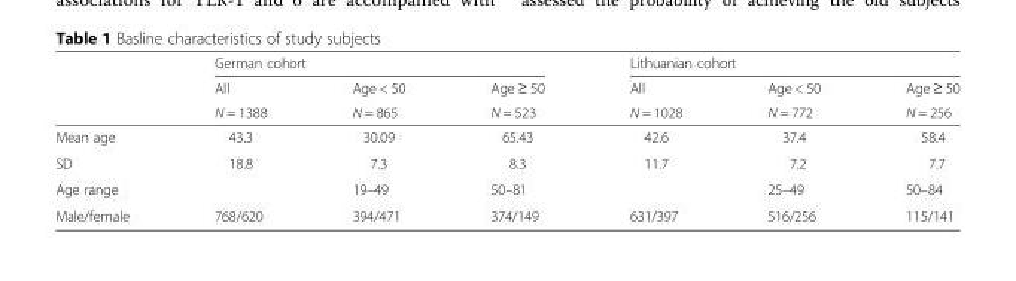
<table><thead><tr><td rowspan="3"></td><td colspan="3">German cohort</td><td colspan="3">Lithuanian cohort</td></tr><tr><td rowspan="2">All N = 1388</td><td rowspan="2">Age &lt; 50 N = 865</td><td rowspan="2">Age ≥ 50 N = 523</td><td rowspan="2">All N = 1028</td><td rowspan="2">Age &lt; 50 N = 772</td><td rowspan="2">Age ≥ 50 N = 256</td></tr><tr></tr></thead><tbody><tr><td>Mean age</td><td>43.3</td><td>30.09</td><td>65.43</td><td>42.6</td><td>37.4</td><td>58.4</td></tr><tr><td>SD</td><td>18.8</td><td>7.3</td><td>8.3</td><td>11.7</td><td>7.2</td><td>7.7</td></tr><tr><td>Age range</td><td></td><td>19–49</td><td>50–81</td><td></td><td>25–49</td><td>50–84</td></tr><tr><td>Male/female</td><td>768/620</td><td>394/471</td><td>374/149</td><td>631/397</td><td>516/256</td><td>115/141</td></tr></tbody></table>